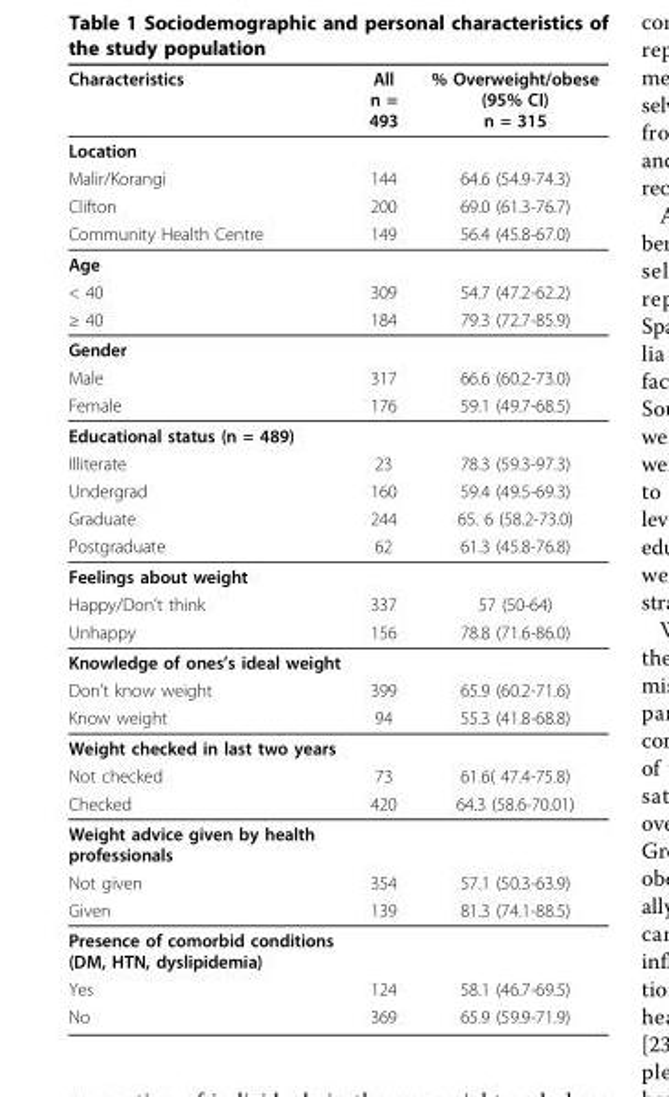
<table><thead><tr><td>Characteristics</td><td>All n = 493</td><td>% Overweight/obese (95% CI) n = 315</td></tr></thead><tbody><tr><td colspan="3">Location</td></tr><tr><td>Malir/Korangi</td><td>144</td><td>64.6 (54.9-74.3)</td></tr><tr><td>Clifton</td><td>200</td><td>69.0 (61.3-76.7)</td></tr><tr><td>Community Health Centre</td><td>149</td><td>56.4 (45.8-67.0)</td></tr><tr><td colspan="3">Age</td></tr><tr><td>&lt; 40</td><td>309</td><td>54.7 (47.2-62.2)</td></tr><tr><td>≥ 40</td><td>184</td><td>79.3 (72.7-85.9)</td></tr><tr><td colspan="3">Gender</td></tr><tr><td>Male</td><td>317</td><td>66.6 (60.2-73.0)</td></tr><tr><td>Female</td><td>176</td><td>59.1 (49.7-68.5)</td></tr><tr><td colspan="3">Educational status (n = 489)</td></tr><tr><td>Illiterate</td><td>23</td><td>78.3 (59.3-97.3)</td></tr><tr><td>Undergrad</td><td>160</td><td>59.4 (49.5-69.3)</td></tr><tr><td>Graduate</td><td>244</td><td>65. 6 (58.2-73.0)</td></tr><tr><td>Postgraduate</td><td>62</td><td>61.3 (45.8-76.8)</td></tr><tr><td colspan="3">Feelings about weight</td></tr><tr><td>Happy/Don’t think</td><td>337</td><td>57 (50-64)</td></tr><tr><td>Unhappy</td><td>156</td><td>78.8 (71.6-86.0)</td></tr><tr><td colspan="3">Knowledge of ones’s ideal weight</td></tr><tr><td>Don’t know weight</td><td>399</td><td>65.9 (60.2-71.6)</td></tr><tr><td>Know weight</td><td>94</td><td>55.3 (41.8-68.8)</td></tr><tr><td colspan="3">Weight checked in last two years</td></tr><tr><td>Not checked</td><td>73</td><td>61.6( 47.4-75.8)</td></tr><tr><td>Checked</td><td>420</td><td>64.3 (58.6-70.01)</td></tr><tr><td colspan="3">Weight advice given by health professionals</td></tr><tr><td>Not given</td><td>354</td><td>57.1 (50.3-63.9)</td></tr><tr><td>Given</td><td>139</td><td>81.3 (74.1-88.5)</td></tr><tr><td colspan="3">Presence of comorbid conditions (DM, HTN, dyslipidemia)</td></tr><tr><td>Yes</td><td>124</td><td>58.1 (46.7-69.5)</td></tr><tr><td>No</td><td>369</td><td>65.9 (59.9-71.9)</td></tr></tbody></table>